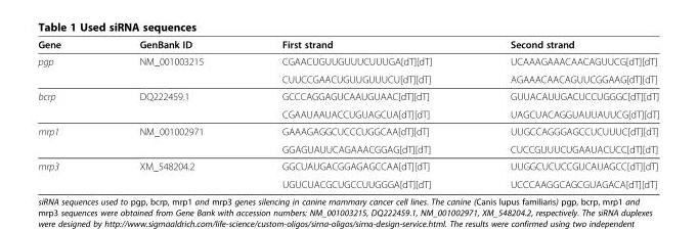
<table><thead><tr><td>Gene</td><td>GenBank ID</td><td>First strand</td><td>Second strand</td></tr></thead><tbody><tr><td rowspan="2">pgp</td><td rowspan="2">NM_001003215</td><td>CGAACUGUUGUUUCUUUGA[dT][dT]</td><td>UCAAAGAAACAACAGUUCG[dT][dT]</td></tr><tr><td>CUUCCGAACUGUUGUUUCU[dT][dT]</td><td>AGAAACAACAGUUCGGAAG[dT][dT]</td></tr><tr><td rowspan="2">bcrp</td><td rowspan="2">DQ222459.1</td><td>GCCCAGGAGUCAAUGUAAC[dT][dT]</td><td>GUUACAUUGACUCCUGGGC[dT][dT]</td></tr><tr><td>CGAAUAAUACCUGUAGCUA[dT][dT]</td><td>UAGCUACAGGUAUUAUUCG[dT][dT]</td></tr><tr><td rowspan="2">mrp1</td><td rowspan="2">NM_001002971</td><td>GAAAGAGGCUCCCUGGCAA[dT][dT]</td><td>UUGCCAGGGAGCCUCUUUC[dT][dT]</td></tr><tr><td>GGAGUAUUCAGAAACGGAG[dT][dT]</td><td>CUCCGUUUCUGAAUACUCC[dT][dT]</td></tr><tr><td rowspan="2">mrp3</td><td rowspan="2">XM_548204.2</td><td>GGCUAUGACGGAGAGCCAA[dT][dT]</td><td>UUGGCUCUCCGUCAUAGCC[dT][dT]</td></tr><tr><td>UGUCUACGCUGCCUUGGGA[dT][dT]</td><td>UCCCAAGGCAGCGUAGACA[dT][dT]</td></tr></tbody></table>